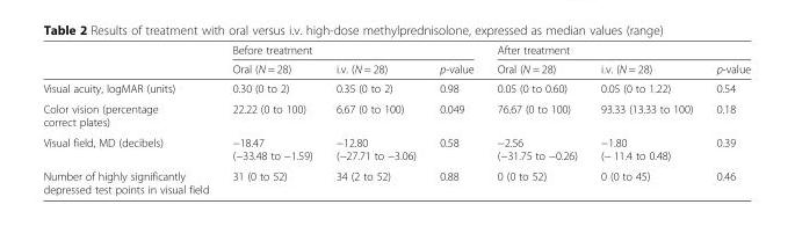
<table><thead><tr><td rowspan="2"></td><td colspan="3">Before treatment</td><td colspan="3">After treatment</td></tr><tr><td>Oral (N = 28)</td><td>i.v. (N = 28)</td><td>p-value</td><td>Oral (N = 28)</td><td>i.v. (N = 28)</td><td>p-value</td></tr></thead><tbody><tr><td>Visual acuity, logMAR (units)</td><td>0.30 (0 to 2)</td><td>0.35 (0 to 2)</td><td>0.98</td><td>0.05 (0 to 0.60)</td><td>0.05 (0 to 1.22)</td><td>0.54</td></tr><tr><td>Color vision (percentage correct plates)</td><td>22.22 (0 to 100)</td><td>6.67 (0 to 100)</td><td>0.049</td><td>76.67 (0 to 100)</td><td>93.33 (13.33 to 100)</td><td>0.18</td></tr><tr><td>Visual field, MD (decibels)</td><td>−18.47 (−33.48 to −1.59)</td><td>−12.80 (−27.71 to −3.06)</td><td>0.58</td><td>−2.56 (−31.75 to −0.26)</td><td>−1.80 (− 11.4 to 0.48)</td><td>0.39</td></tr><tr><td>Number of highly significantly depressed test points in visual field</td><td>31 (0 to 52)</td><td>34 (2 to 52)</td><td>0.88</td><td>0 (0 to 52)</td><td>0 (0 to 45)</td><td>0.46</td></tr></tbody></table>